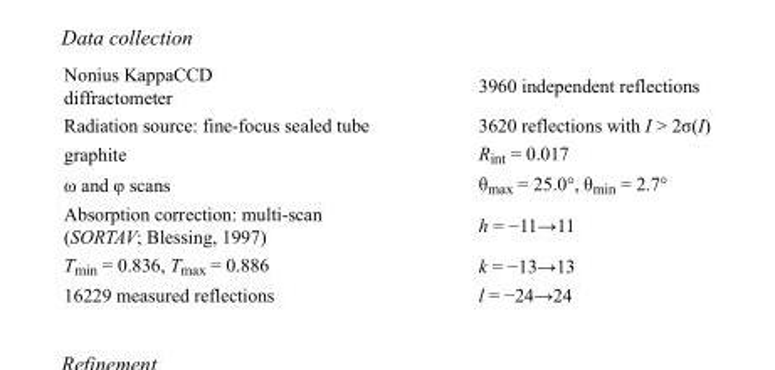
<table><tbody><tr><td>Nonius KappaCCD diffractometer</td><td>3960 independent reflections</td></tr><tr><td>Radiation source: fine-focus sealed tube</td><td>3620 reflections with I &gt; 2σ(I)</td></tr><tr><td>graphite</td><td>R<sub>int</sub> = 0.017</td></tr><tr><td>ω and φ scans</td><td>θ<sub>max</sub> = 25.0°, θ<sub>min</sub> = 2.7°</td></tr><tr><td>Absorption correction: multi-scan (SORTAV; Blessing, 1997)</td><td>h = −11→11</td></tr><tr><td>T<sub>min</sub> = 0.836, T<sub>max</sub> = 0.886</td><td>k = −13→13</td></tr><tr><td>16229 measured reflections</td><td>l = −24→24</td></tr></tbody></table>